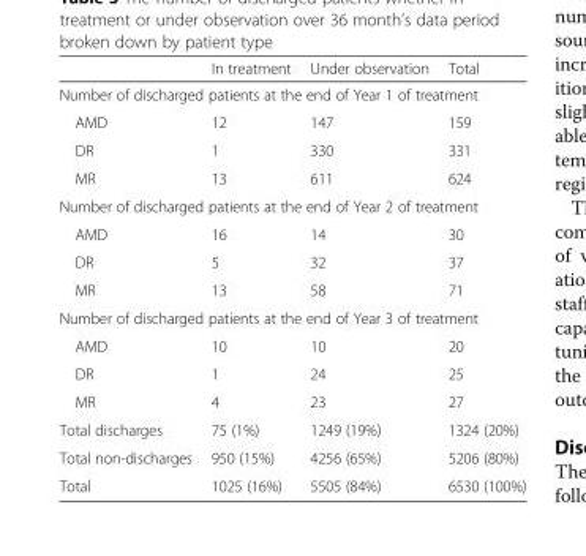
<table><thead><tr><td></td><td>In treatment</td><td>Under observation</td><td>Total</td></tr></thead><tbody><tr><td colspan="4">Number of discharged patients at the end of Year 1 of treatment</td></tr><tr><td>AMD</td><td>12</td><td>147</td><td>159</td></tr><tr><td>DR</td><td>1</td><td>330</td><td>331</td></tr><tr><td>MR</td><td>13</td><td>611</td><td>624</td></tr><tr><td colspan="4">Number of discharged patients at the end of Year 2 of treatment</td></tr><tr><td>AMD</td><td>16</td><td>14</td><td>30</td></tr><tr><td>DR</td><td>5</td><td>32</td><td>37</td></tr><tr><td>MR</td><td>13</td><td>58</td><td>71</td></tr><tr><td colspan="4">Number of discharged patients at the end of Year 3 of treatment</td></tr><tr><td>AMD</td><td>10</td><td>10</td><td>20</td></tr><tr><td>DR</td><td>1</td><td>24</td><td>25</td></tr><tr><td>MR</td><td>4</td><td>23</td><td>27</td></tr><tr><td>Total discharges</td><td>75 (1%)</td><td>1249 (19%)</td><td>1324 (20%)</td></tr><tr><td>Total non-discharges</td><td>950 (15%)</td><td>4256 (65%)</td><td>5206 (80%)</td></tr><tr><td>Total</td><td>1025 (16%)</td><td>5505 (84%)</td><td>6530 (100%)</td></tr></tbody></table>